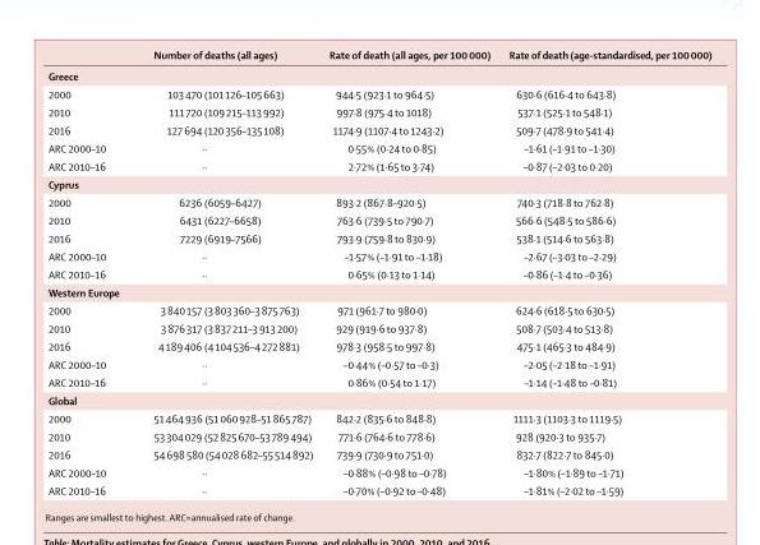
<table><thead><tr><td></td><td>Number of deaths (all ages)</td><td>Rate of death (all ages, per 100 000)</td><td>Rate of death (age-standardised, per 100 000)</td></tr></thead><tbody><tr><td colspan="4">Greece</td></tr><tr><td>2000</td><td>103 470 (101 126–105 663)</td><td>944·5 (923·1 to 964·5)</td><td>630·6 (616·4 to 643·8)</td></tr><tr><td>2010</td><td>111 720 (109 215–113 992)</td><td>997·8 (975·4 to 1018)</td><td>537·1 (525·1 to 548·1)</td></tr><tr><td>2016</td><td>127 694 (120 356–135 108)</td><td>1174·9 (1107·4 to 1243·2)</td><td>509·7 (478·9 to 541·4)</td></tr><tr><td>ARC 2000–10</td><td>··</td><td>0·55% (0·24 to 0·85)</td><td>–1·61 (–1·91 to –1·30)</td></tr><tr><td>ARC 2010–16</td><td>··</td><td>2·72% (1·65 to 3·74)</td><td>–0·87 (–2·03 to 0·20)</td></tr><tr><td colspan="4">Cyprus</td></tr><tr><td>2000</td><td>6236 (6059–6427)</td><td>893·2 (867·8–920·5)</td><td>740·3 (718·8 to 762·8)</td></tr><tr><td>2010</td><td>6431 (6227–6658)</td><td>763·6 (739·5 to 790·7)</td><td>566·6 (548·5 to 586·6)</td></tr><tr><td>2016</td><td>7229 (6919–7566)</td><td>793·9 (759·8 to 830·9)</td><td>538·1 (514·6 to 563·8)</td></tr><tr><td>ARC 2000–10</td><td>··</td><td>–1·57% (–1·91 to –1·18)</td><td>–2·67 (–3·03 to –2·29)</td></tr><tr><td>ARC 2010–16</td><td>··</td><td>0·65% (0·13 to 1·14)</td><td>–0·86 (–1·4 to –0·36)</td></tr><tr><td colspan="4">Western Europe</td></tr><tr><td>2000</td><td>3 840 157 (3 803 360–3 875 763)</td><td>971 (961·7 to 980·0)</td><td>624·6 (618·5 to 630·5)</td></tr><tr><td>2010</td><td>3 876 317 (3 837 211–3 913 200)</td><td>929 (919·6 to 937·8)</td><td>508·7 (503·4 to 513·8)</td></tr><tr><td>2016</td><td>4 189 406 (4 104 536–4 272 881)</td><td>978·3 (958·5 to 997·8)</td><td>475·1 (465·3 to 484·9)</td></tr><tr><td>ARC 2000–10</td><td>··</td><td>–0·44% (–0·57 to –0·3)</td><td>–2·05 (–2·18 to –1·91)</td></tr><tr><td>ARC 2010–16</td><td>··</td><td>0·86% (0·54 to 1·17)</td><td>–1·14 (–1·48 to –0·81)</td></tr><tr><td colspan="4">Global</td></tr><tr><td>2000</td><td>51 464 936 (51 060 928–51 865 787)</td><td>842·2 (835·6 to 848·8)</td><td>1111·3 (1103·3 to 1119·5)</td></tr><tr><td>2010</td><td>53 304 029 (52 825 670–53 789 494)</td><td>771·6 (764·6 to 778·6)</td><td>928 (920·3 to 935·7)</td></tr><tr><td>2016</td><td>54 698 580 (54 028 682–55 514 892)</td><td>739·9 (730·9 to 751·0)</td><td>832·7 (822·7 to 845·0)</td></tr><tr><td>ARC 2000–10</td><td>··</td><td>–0·88% (–0·98 to –0·78)</td><td>–1·80% (–1·89 to –1·71)</td></tr><tr><td>ARC 2010–16</td><td>··</td><td>–0·70% (–0·92 to –0·48)</td><td>–1·81% (–2·02 to –1·59)</td></tr></tbody></table>